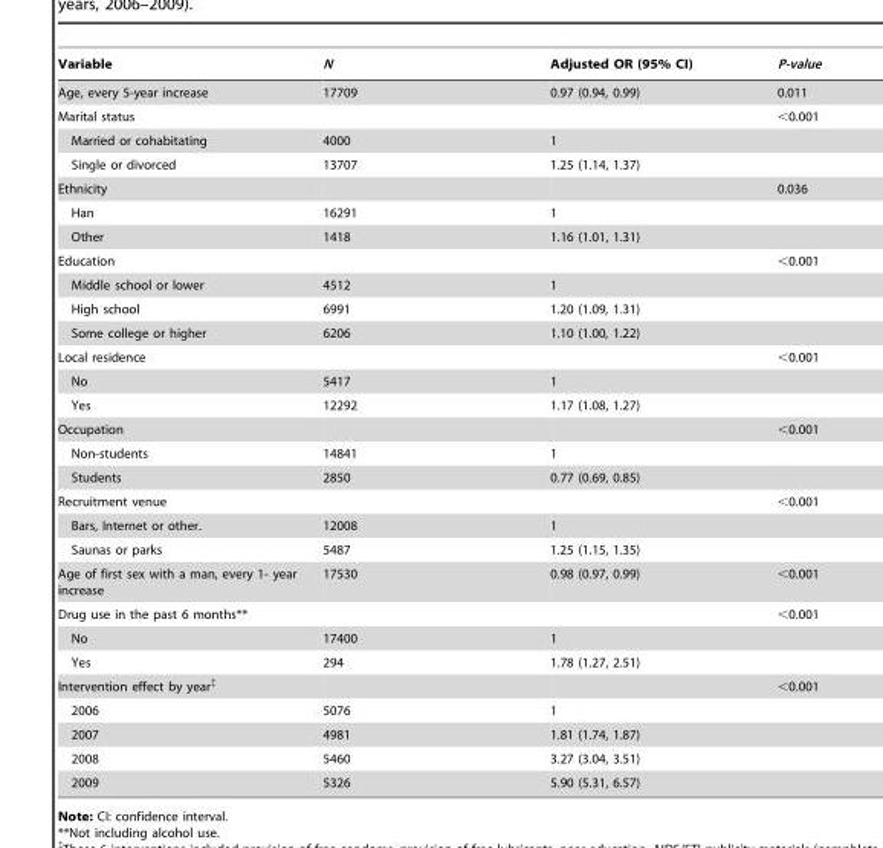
<table><thead><tr><td>Variable</td><td>N</td><td>Adjusted OR (95% CI)</td><td>P-value</td></tr></thead><tbody><tr><td>Age, every 5-year increase</td><td>17709</td><td>0.97 (0.94, 0.99)</td><td>0.011</td></tr><tr><td>Marital status</td><td></td><td></td><td>&lt;0.001</td></tr><tr><td>Married or cohabitating</td><td>4000</td><td>1</td><td></td></tr><tr><td>Single or divorced</td><td>13707</td><td>1.25 (1.14, 1.37)</td><td></td></tr><tr><td>Ethnicity</td><td></td><td></td><td>0.036</td></tr><tr><td>Han</td><td>16291</td><td>1</td><td></td></tr><tr><td>Other</td><td>1418</td><td>1.16 (1.01, 1.31)</td><td></td></tr><tr><td>Education</td><td></td><td></td><td>&lt;0.001</td></tr><tr><td>Middle school or lower</td><td>4512</td><td>1</td><td></td></tr><tr><td>High school</td><td>6991</td><td>1.20 (1.09, 1.31)</td><td></td></tr><tr><td>Some college or higher</td><td>6206</td><td>1.10 (1.00, 1.22)</td><td></td></tr><tr><td>Local residence</td><td></td><td></td><td>&lt;0.001</td></tr><tr><td>No</td><td>5417</td><td>1</td><td></td></tr><tr><td>Yes</td><td>12292</td><td>1.17 (1.08, 1.27)</td><td></td></tr><tr><td>Occupation</td><td></td><td></td><td>&lt;0.001</td></tr><tr><td>Non-students</td><td>14841</td><td>1</td><td></td></tr><tr><td>Students</td><td>2850</td><td>0.77 (0.69, 0.85)</td><td></td></tr><tr><td>Recruitment venue</td><td></td><td></td><td>&lt;0.001</td></tr><tr><td>Bars, Internet or other.</td><td>12008</td><td>1</td><td></td></tr><tr><td>Saunas or parks</td><td>5487</td><td>1.25 (1.15, 1.35)</td><td></td></tr><tr><td>Age of first sex with a man, every 1- year increase</td><td>17530</td><td>0.98 (0.97, 0.99)</td><td>&lt;0.001</td></tr><tr><td>Drug use in the past 6 months**</td><td></td><td></td><td>&lt;0.001</td></tr><tr><td>No</td><td>17400</td><td>1</td><td></td></tr><tr><td>Yes</td><td>294</td><td>1.78 (1.27, 2.51)</td><td></td></tr><tr><td>Intervention effect by year‡</td><td></td><td></td><td>&lt;0.001</td></tr><tr><td>2006</td><td>5076</td><td>1</td><td></td></tr><tr><td>2007</td><td>4981</td><td>1.81 (1.74, 1.87)</td><td></td></tr><tr><td>2008</td><td>5460</td><td>3.27 (3.04, 3.51)</td><td></td></tr><tr><td>2009</td><td>5326</td><td>5.90 (5.31, 6.57)</td><td></td></tr></tbody></table>